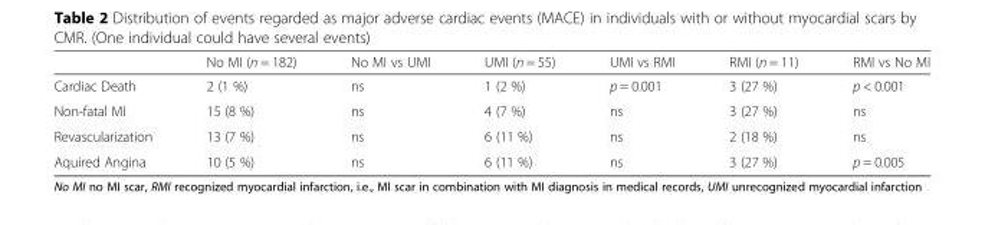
<table><thead><tr><td></td><td>No MI (n = 182)</td><td>No MI vs UMI</td><td>UMI (n = 55)</td><td>UMI vs RMI</td><td>RMI (n = 11)</td><td>RMI vs No MI</td></tr></thead><tbody><tr><td>Cardiac Death</td><td>2 (1 %)</td><td>ns</td><td>1 (2 %)</td><td>p = 0.001</td><td>3 (27 %)</td><td>p &lt; 0.001</td></tr><tr><td>Non-fatal MI</td><td>15 (8 %)</td><td>ns</td><td>4 (7 %)</td><td>ns</td><td>3 (27 %)</td><td>ns</td></tr><tr><td>Revascularization</td><td>13 (7 %)</td><td>ns</td><td>6 (11 %)</td><td>ns</td><td>2 (18 %)</td><td>ns</td></tr><tr><td>Aquired Angina</td><td>10 (5 %)</td><td>ns</td><td>6 (11 %)</td><td>ns</td><td>3 (27 %)</td><td>p = 0.005</td></tr></tbody></table>